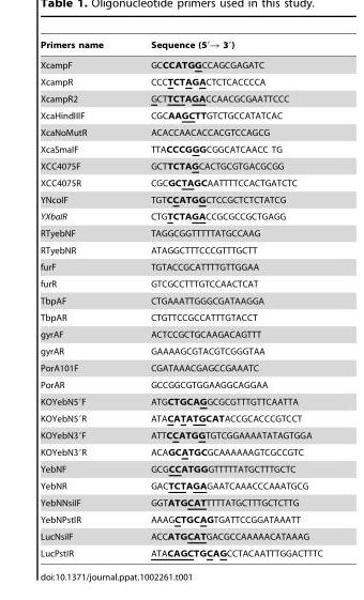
<table><thead><tr><td>Primers name</td><td>Sequence (5′→ 3′)</td></tr></thead><tbody><tr><td>XcampF</td><td>GCCCATGGCCAGCGAGATC</td></tr><tr><td>XcampR</td><td>CCCTCTAGACTCTCACCCCA</td></tr><tr><td>XcampR2</td><td>GCTTCTAGACCAACGCGAATTCCC</td></tr><tr><td>XcaHindIIIF</td><td>CGCAAGCTTGTCTGCCATATCAC</td></tr><tr><td>XcaNoMutR</td><td>ACACCAACACCACGTCCAGCG</td></tr><tr><td>XcaSmaIF</td><td>TTACCCGGGCGGCATCAACC TG</td></tr><tr><td>XCC4075F</td><td>GCTTCTAGCACTGCGTGACGCGG</td></tr><tr><td>XCC4075R</td><td>CGCGCTAGCAATTTTCCACTGATCTC</td></tr><tr><td>YNcoIF</td><td>TGTCCATGGCTCCGCTCTCTATCG</td></tr><tr><td>YXbaIR</td><td>CTGTCTAGACCGCGCCGCTGAGG</td></tr><tr><td>RTyebNF</td><td>TAGGCGGTTTTTATGCCAAG</td></tr><tr><td>RTyebNR</td><td>ATAGGCTTTCCCGTTTGCTT</td></tr><tr><td>furF</td><td>TGTACCGCATTTTGTTGGAA</td></tr><tr><td>furR</td><td>GTCGCCTTTGTCCAACTCAT</td></tr><tr><td>TbpAF</td><td>CTGAAATTGGGCGATAAGGA</td></tr><tr><td>TbpAR</td><td>CTGTTCCGCCATTTGTACCT</td></tr><tr><td>gyrAF</td><td>ACTCCGCTGCAAGACAGTTT</td></tr><tr><td>gyrAR</td><td>GAAAAGCGTACGTCGGGTAA</td></tr><tr><td>PorA101F</td><td>CGATAAACGAGCCGAAATC</td></tr><tr><td>PorAR</td><td>GCCGGCGTGGAAGGCAGGAA</td></tr><tr><td>KOYebN5′F</td><td>ATGCTGCAGGCGCGTTTGTTCAATTA</td></tr><tr><td>KOYebN5′R</td><td>ATACATATGCATACCGCACCCGTCCT</td></tr><tr><td>KOYebN3′F</td><td>ATTCCATGGTGTCGGAAAATATAGTGGA</td></tr><tr><td>KOYebN3′R</td><td>ACAGCATGCGCAAAAAAGTCGCCGTC</td></tr><tr><td>YebNF</td><td>GCGCCATGGGTTTTTATGCTTTGCTC</td></tr><tr><td>YebNR</td><td>GACTCTAGAGAATCAAACCCAAATGCG</td></tr><tr><td>YebNNsiIF</td><td>GGTATGCATTTTTATGCTTTGCTCTTG</td></tr><tr><td>YebNPstIR</td><td>AAAGCTGCAGTGATTCCGGATAAATT</td></tr><tr><td>LucNsiIF</td><td>ACCATGCATGACGCCAAAAACATAAAG</td></tr><tr><td>LucPstIR</td><td>ATACAGCTGCAGCCTACAATTTGGACTTTC</td></tr></tbody></table>